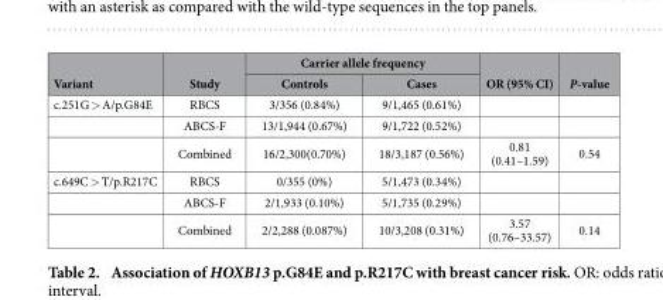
<table><thead><tr><td rowspan="2">Variant</td><td rowspan="2">Study</td><td colspan="2">Carrier allele frequency</td><td rowspan="2">OR (95% CI)</td><td rowspan="2">P-value</td></tr><tr><td>Controls</td><td>Cases</td></tr></thead><tbody><tr><td rowspan="3">c.251G &gt; A/p.G84E</td><td>RBCS</td><td>3/356 (0.84%)</td><td>9/1,465 (0.61%)</td><td></td><td></td></tr><tr><td>ABCS-F</td><td>13/1,944 (0.67%)</td><td>9/1,722 (0.52%)</td><td></td><td></td></tr><tr><td>Combined</td><td>16/2,300(0.70%)</td><td>18/3,187 (0.56%)</td><td>0.81 (0.41–1.59)</td><td>0.54</td></tr><tr><td rowspan="3">c.649C &gt; T/p.R217C</td><td>RBCS</td><td>0/355 (0%)</td><td>5/1,473 (0.34%)</td><td></td><td></td></tr><tr><td>ABCS-F</td><td>2/1,933 (0.10%)</td><td>5/1,735 (0.29%)</td><td></td><td></td></tr><tr><td>Combined</td><td>2/2,288 (0.087%)</td><td>10/3,208 (0.31%)</td><td>3.57 (0.76–33.57)</td><td>0.14</td></tr></tbody></table>